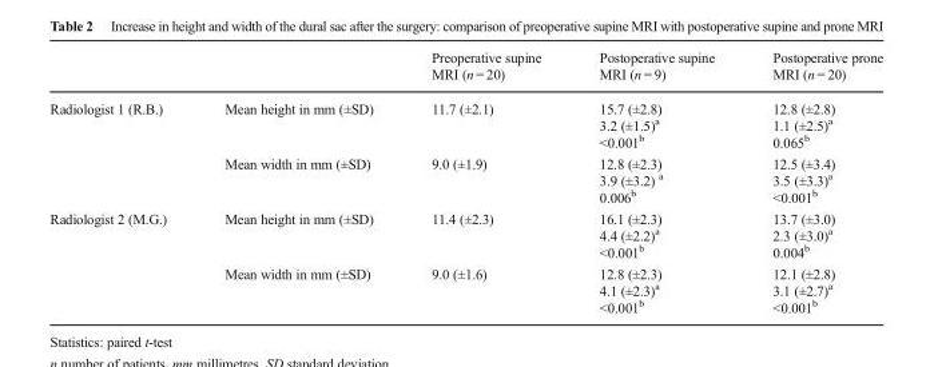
<table><thead><tr><td></td><td></td><td>Preoperative supine MRI (n = 20)</td><td>Postoperative supine MRI (n = 9)</td><td>Postoperative prone MRI (n = 20)</td></tr></thead><tbody><tr><td rowspan="2">Radiologist 1 (R.B.)</td><td>Mean height in mm (±SD)</td><td>11.7 (±2.1)</td><td>15.7 (±2.8) 3.2 (±1.5)<sup>a</sup> &lt;0.001<sup>b</sup></td><td>12.8 (±2.8) 1.1 (±2.5)<sup>a</sup> 0.065<sup>b</sup></td></tr><tr><td>Mean width in mm (±SD)</td><td>9.0 (±1.9)</td><td>12.8 (±2.3) 3.9 (±3.2) <sup>a</sup> 0.006<sup>b</sup></td><td>12.5 (±3.4) 3.5 (±3.3)<sup>a</sup> &lt;0.001<sup>b</sup></td></tr><tr><td rowspan="2">Radiologist 2 (M.G.)</td><td>Mean height in mm (±SD)</td><td>11.4 (±2.3)</td><td>16.1 (±2.3) 4.4 (±2.2)<sup>a</sup> &lt;0.001<sup>b</sup></td><td>13.7 (±3.0) 2.3 (±3.0)<sup>a</sup> 0.004<sup>b</sup></td></tr><tr><td>Mean width in mm (±SD)</td><td>9.0 (±1.6)</td><td>12.8 (±2.3) 4.1 (±2.3)<sup>a</sup> &lt;0.001<sup>b</sup></td><td>12.1 (±2.8) 3.1 (±2.7)<sup>a</sup> &lt;0.001<sup>b</sup></td></tr></tbody></table>